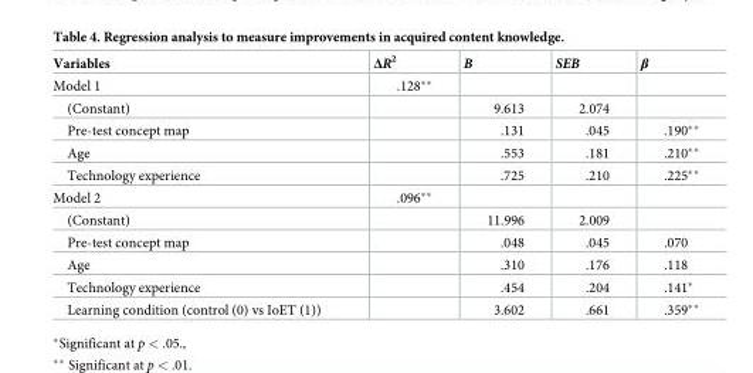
<table><thead><tr><td>Variables</td><td>ΔR<sup>2</sup></td><td>B</td><td>SEB</td><td>β</td></tr></thead><tbody><tr><td>Model 1</td><td>.128**</td><td></td><td></td><td></td></tr><tr><td>(Constant)</td><td></td><td>9.613</td><td>2.074</td><td></td></tr><tr><td>Pre-test concept map</td><td></td><td>.131</td><td>.045</td><td>.190**</td></tr><tr><td>Age</td><td></td><td>.553</td><td>.181</td><td>.210**</td></tr><tr><td>Technology experience</td><td></td><td>.725</td><td>.210</td><td>.225**</td></tr><tr><td>Model 2</td><td>.096**</td><td></td><td></td><td></td></tr><tr><td>(Constant)</td><td></td><td>11.996</td><td>2.009</td><td></td></tr><tr><td>Pre-test concept map</td><td></td><td>.048</td><td>.045</td><td>.070</td></tr><tr><td>Age</td><td></td><td>.310</td><td>.176</td><td>.118</td></tr><tr><td>Technology experience</td><td></td><td>.454</td><td>.204</td><td>.141*</td></tr><tr><td>Learning condition (control (0) vs IoET (1))</td><td></td><td>3.602</td><td>.661</td><td>.359**</td></tr></tbody></table>